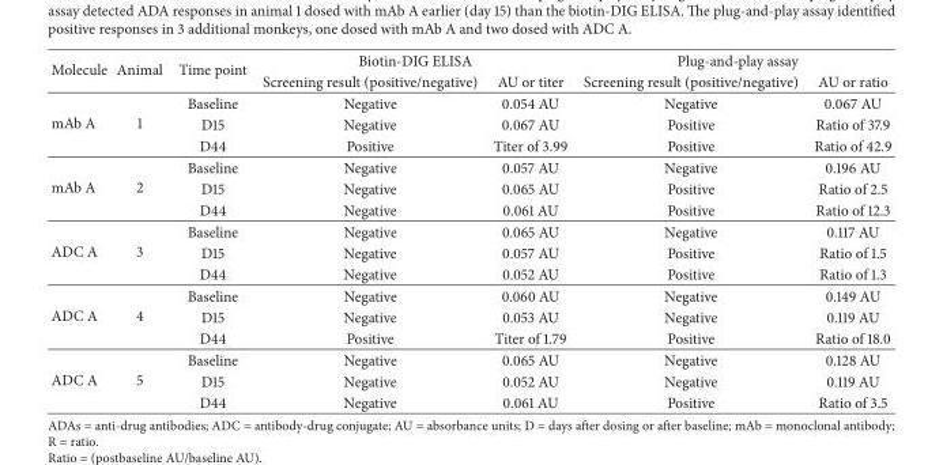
<table><thead><tr><td rowspan="2">Molecule</td><td rowspan="2">Animal</td><td rowspan="2">Time point</td><td colspan="2">Biotin-DIG ELISA</td><td colspan="2">Plug-and-play assay</td></tr><tr><td>Screening result (positive/negative)</td><td>AU or titer</td><td>Screening result (positive/negative)</td><td>AU or ratio</td></tr></thead><tbody><tr><td rowspan="3">mAb A</td><td rowspan="3">1</td><td>Baseline</td><td>Negative</td><td>0.054 AU</td><td>Negative</td><td>0.067 AU</td></tr><tr><td>D15</td><td>Negative</td><td>0.067 AU</td><td>Positive</td><td>Ratio of 37.9</td></tr><tr><td>D44</td><td>Positive</td><td>Titer of 3.99</td><td>Positive</td><td>Ratio of 42.9</td></tr><tr><td rowspan="3">mAb A</td><td rowspan="3">2</td><td>Baseline</td><td>Negative</td><td>0.057 AU</td><td>Negative</td><td>0.196 AU</td></tr><tr><td>D15</td><td>Negative</td><td>0.065 AU</td><td>Positive</td><td>Ratio of 2.5</td></tr><tr><td>D44</td><td>Negative</td><td>0.061 AU</td><td>Positive</td><td>Ratio of 12.3</td></tr><tr><td rowspan="3">ADC A</td><td rowspan="3">3</td><td>Baseline</td><td>Negative</td><td>0.065 AU</td><td>Negative</td><td>0.117 AU</td></tr><tr><td>D15</td><td>Negative</td><td>0.057 AU</td><td>Positive</td><td>Ratio of 1.5</td></tr><tr><td>D44</td><td>Negative</td><td>0.052 AU</td><td>Positive</td><td>Ratio of 1.3</td></tr><tr><td rowspan="3">ADC A</td><td rowspan="3">4</td><td>Baseline</td><td>Negative</td><td>0.060 AU</td><td>Negative</td><td>0.149 AU</td></tr><tr><td>D15</td><td>Negative</td><td>0.053 AU</td><td>Negative</td><td>0.119 AU</td></tr><tr><td>D44</td><td>Positive</td><td>Titer of 1.79</td><td>Positive</td><td>Ratio of 18.0</td></tr><tr><td rowspan="3">ADC A</td><td rowspan="3">5</td><td>Baseline</td><td>Negative</td><td>0.065 AU</td><td>Negative</td><td>0.128 AU</td></tr><tr><td>D15</td><td>Negative</td><td>0.052 AU</td><td>Negative</td><td>0.119 AU</td></tr><tr><td>D44</td><td>Negative</td><td>0.061 AU</td><td>Positive</td><td>Ratio of 3.5</td></tr></tbody></table>